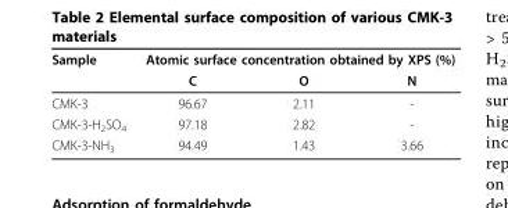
<table><thead><tr><td rowspan="2">Sample</td><td colspan="3">Atomic surface concentration obtained by XPS (%)</td></tr><tr><td>C</td><td>O</td><td>N</td></tr></thead><tbody><tr><td>CMK-3</td><td>96.67</td><td>2.11</td><td>-</td></tr><tr><td>CMK-3-H<sub>2</sub>SO<sub>4</sub></td><td>97.18</td><td>2.82</td><td>-</td></tr><tr><td>CMK-3-NH<sub>3</sub></td><td>94.49</td><td>1.43</td><td>3.66</td></tr></tbody></table>